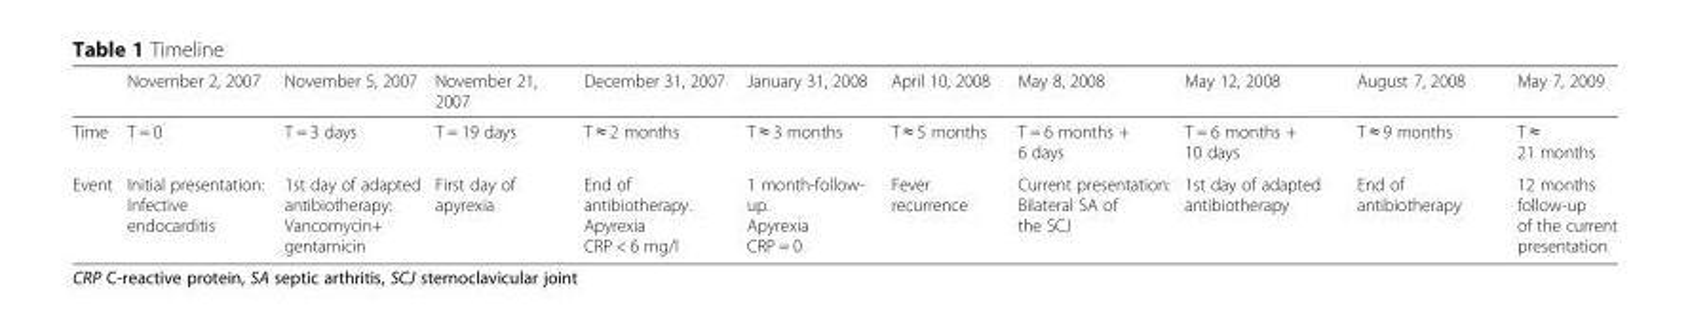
<table><thead><tr><td></td><td>November 2, 2007</td><td>November 5, 2007</td><td>November 21, 2007</td><td>December 31, 2007</td><td>January 31, 2008</td><td>April 10, 2008</td><td>May 8, 2008</td><td>May 12, 2008</td><td>August 7, 2008</td><td>May 7, 2009</td></tr></thead><tbody><tr><td>Time</td><td>T = 0</td><td>T = 3 days</td><td>T = 19 days</td><td>T ≈ 2 months</td><td>T ≈ 3 months</td><td>T ≈ 5 months</td><td>T = 6 months + 6 days</td><td>T = 6 months + 10 days</td><td>T ≈ 9 months</td><td>T ≈ 21 months</td></tr><tr><td>Event</td><td>Initial presentation: Infective endocarditis</td><td>1st day of adapted antibiotherapy: Vancomycin+ gentamicin</td><td>First day of apyrexia</td><td>End of antibiotherapy. Apyrexia CRP &lt; 6 mg/l</td><td>1 month-follow- up. Apyrexia CRP = 0</td><td>Fever recurrence</td><td>Current presentation: Bilateral SA of the SCJ</td><td>1st day of adapted antibiotherapy</td><td>End of antibiotherapy</td><td>12 months follow-up of the current presentation</td></tr></tbody></table>